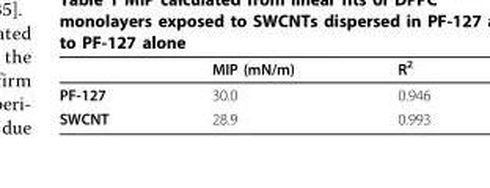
<table><thead><tr><td></td><td>MIP (mN/m)</td><td>R<sup>2</sup></td></tr></thead><tbody><tr><td>PF-127</td><td>30.0</td><td>0.946</td></tr><tr><td>SWCNT</td><td>28.9</td><td>0.993</td></tr></tbody></table>